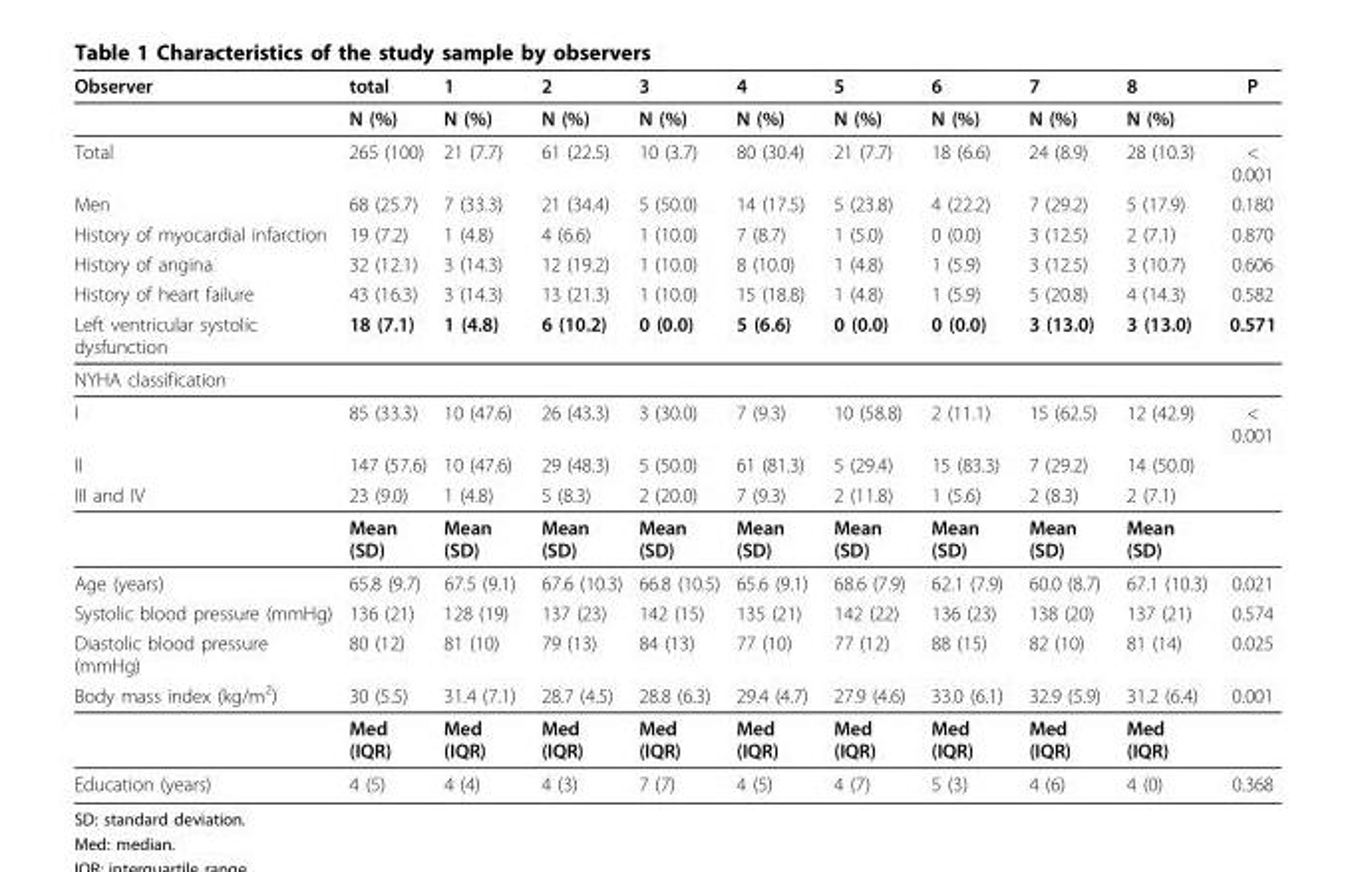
<table><thead><tr><td>Observer</td><td>total</td><td>1</td><td>2</td><td>3</td><td>4</td><td>5</td><td>6</td><td>7</td><td>8</td><td>P</td></tr></thead><tbody><tr><td></td><td>N (%)</td><td>N (%)</td><td>N (%)</td><td>N (%)</td><td>N (%)</td><td>N (%)</td><td>N (%)</td><td>N (%)</td><td>N (%)</td><td></td></tr><tr><td>Total</td><td>265 (100)</td><td>21 (7.7)</td><td>61 (22.5)</td><td>10 (3.7)</td><td>80 (30.4)</td><td>21 (7.7)</td><td>18 (6.6)</td><td>24 (8.9)</td><td>28 (10.3)</td><td>&lt; 0.001</td></tr><tr><td>Men</td><td>68 (25.7)</td><td>7 (33.3)</td><td>21 (34.4)</td><td>5 (50.0)</td><td>14 (17.5)</td><td>5 (23.8)</td><td>4 (22.2)</td><td>7 (29.2)</td><td>5 (17.9)</td><td>0.180</td></tr><tr><td>History of myocardial infarction</td><td>19 (7.2)</td><td>1 (4.8)</td><td>4 (6.6)</td><td>1 (10.0)</td><td>7 (8.7)</td><td>1 (5.0)</td><td>0 (0.0)</td><td>3 (12.5)</td><td>2 (7.1)</td><td>0.870</td></tr><tr><td>History of angina</td><td>32 (12.1)</td><td>3 (14.3)</td><td>12 (19.2)</td><td>1 (10.0)</td><td>8 (10.0)</td><td>1 (4.8)</td><td>1 (5.9)</td><td>3 (12.5)</td><td>3 (10.7)</td><td>0.606</td></tr><tr><td>History of heart failure</td><td>43 (16.3)</td><td>3 (14.3)</td><td>13 (21.3)</td><td>1 (10.0)</td><td>15 (18.8)</td><td>1 (4.8)</td><td>1 (5.9)</td><td>5 (20.8)</td><td>4 (14.3)</td><td>0.582</td></tr><tr><td>Left ventricular systolic dysfunction</td><td>18 (7.1)</td><td>1 (4.8)</td><td>6 (10.2)</td><td>0 (0.0)</td><td>5 (6.6)</td><td>0 (0.0)</td><td>0 (0.0)</td><td>3 (13.0)</td><td>3 (13.0)</td><td>0.571</td></tr><tr><td colspan="11">NYHA classification</td></tr><tr><td>I</td><td>85 (33.3)</td><td>10 (47.6)</td><td>26 (43.3)</td><td>3 (30.0)</td><td>7 (9.3)</td><td>10 (58.8)</td><td>2 (11.1)</td><td>15 (62.5)</td><td>12 (42.9)</td><td>&lt; 0.001</td></tr><tr><td>II</td><td>147 (57.6)</td><td>10 (47.6)</td><td>29 (48.3)</td><td>5 (50.0)</td><td>61 (81.3)</td><td>5 (29.4)</td><td>15 (83.3)</td><td>7 (29.2)</td><td>14 (50.0)</td><td></td></tr><tr><td rowspan="2">III and IV</td><td>23 (9.0)</td><td>1 (4.8)</td><td>5 (8.3)</td><td>2 (20.0)</td><td>7 (9.3)</td><td>2 (11.8)</td><td>1 (5.6)</td><td>2 (8.3)</td><td>2 (7.1)</td><td></td></tr><tr><td>Mean (SD)</td><td>Mean (SD)</td><td>Mean (SD)</td><td>Mean (SD)</td><td>Mean (SD)</td><td>Mean (SD)</td><td>Mean (SD)</td><td>Mean (SD)</td><td>Mean (SD)</td><td></td></tr><tr><td>Age (years)</td><td>65.8 (9.7)</td><td>67.5 (9.1)</td><td>67.6 (10.3)</td><td>66.8 (10.5)</td><td>65.6 (9.1)</td><td>68.6 (7.9)</td><td>62.1 (7.9)</td><td>60.0 (8.7)</td><td>67.1 (10.3)</td><td>0.021</td></tr><tr><td>Systolic blood pressure (mmHg)</td><td>136 (21)</td><td>128 (19)</td><td>137 (23)</td><td>142 (15)</td><td>135 (21)</td><td>142 (22)</td><td>136 (23)</td><td>138 (20)</td><td>137 (21)</td><td>0.574</td></tr><tr><td>Diastolic blood pressure (mmHg)</td><td>80 (12)</td><td>81 (10)</td><td>79 (13)</td><td>84 (13)</td><td>77 (10)</td><td>77 (12)</td><td>88 (15)</td><td>82 (10)</td><td>81 (14)</td><td>0.025</td></tr><tr><td rowspan="2">Body mass index (kg/m<sup>2</sup>)</td><td>30 (5.5)</td><td>31.4 (7.1)</td><td>28.7 (4.5)</td><td>28.8 (6.3)</td><td>29.4 (4.7)</td><td>27.9 (4.6)</td><td>33.0 (6.1)</td><td>32.9 (5.9)</td><td>31.2 (6.4)</td><td>0.001</td></tr><tr><td>Med (IQR)</td><td>Med (IQR)</td><td>Med (IQR)</td><td>Med (IQR)</td><td>Med (IQR)</td><td>Med (IQR)</td><td>Med (IQR)</td><td>Med (IQR)</td><td>Med (IQR)</td><td></td></tr><tr><td>Education (years)</td><td>4 (5)</td><td>4 (4)</td><td>4 (3)</td><td>7 (7)</td><td>4 (5)</td><td>4 (7)</td><td>5 (3)</td><td>4 (6)</td><td>4 (0)</td><td>0.368</td></tr></tbody></table>